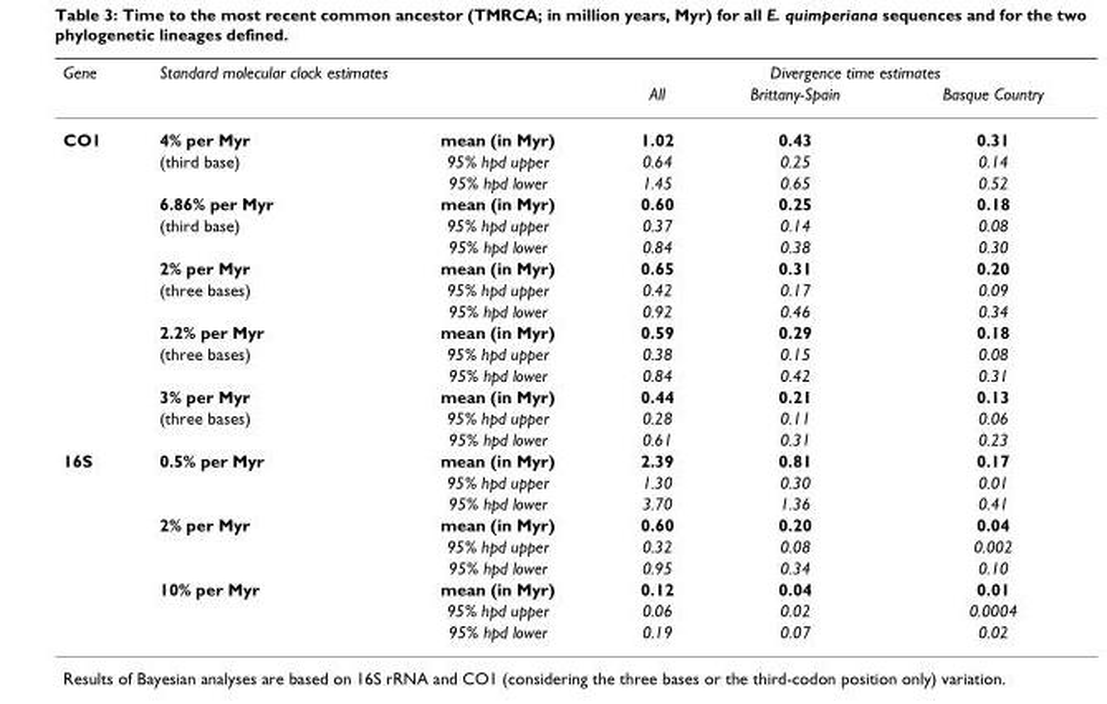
<table><thead><tr><td rowspan="2">Gene</td><td colspan="2">Standard molecular clock estimates</td><td colspan="3">Divergence time estimates</td></tr><tr><td></td><td></td><td>All</td><td>Brittany-Spain</td><td>Basque Country</td></tr></thead><tbody><tr><td rowspan="15">CO1</td><td>4% per Myr</td><td>mean (in Myr)</td><td>1.02</td><td>0.43</td><td>0.31</td></tr><tr><td>(third base)</td><td>95% hpd upper</td><td>0.64</td><td>0.25</td><td>0.14</td></tr><tr><td></td><td>95% hpd lower</td><td>1.45</td><td>0.65</td><td>0.52</td></tr><tr><td>6.86% per Myr</td><td>mean (in Myr)</td><td>0.60</td><td>0.25</td><td>0.18</td></tr><tr><td>(third base)</td><td>95% hpd upper</td><td>0.37</td><td>0.14</td><td>0.08</td></tr><tr><td></td><td>95% hpd lower</td><td>0.84</td><td>0.38</td><td>0.30</td></tr><tr><td>2% per Myr</td><td>mean (in Myr)</td><td>0.65</td><td>0.31</td><td>0.20</td></tr><tr><td>(three bases)</td><td>95% hpd upper</td><td>0.42</td><td>0.17</td><td>0.09</td></tr><tr><td></td><td>95% hpd lower</td><td>0.92</td><td>0.46</td><td>0.34</td></tr><tr><td>2.2% per Myr</td><td>mean (in Myr)</td><td>0.59</td><td>0.29</td><td>0.18</td></tr><tr><td>(three bases)</td><td>95% hpd upper</td><td>0.38</td><td>0.15</td><td>0.08</td></tr><tr><td></td><td>95% hpd lower</td><td>0.84</td><td>0.42</td><td>0.31</td></tr><tr><td>3% per Myr</td><td>mean (in Myr)</td><td>0.44</td><td>0.21</td><td>0.13</td></tr><tr><td>(three bases)</td><td>95% hpd upper</td><td>0.28</td><td>0.11</td><td>0.06</td></tr><tr><td></td><td>95% hpd lower</td><td>0.61</td><td>0.31</td><td>0.23</td></tr><tr><td rowspan="9">16S</td><td>0.5% per Myr</td><td>mean (in Myr)</td><td>2.39</td><td>0.81</td><td>0.17</td></tr><tr><td></td><td>95% hpd upper</td><td>1.30</td><td>0.30</td><td>0.01</td></tr><tr><td></td><td>95% hpd lower</td><td>3.70</td><td>1.36</td><td>0.41</td></tr><tr><td>2% per Myr</td><td>mean (in Myr)</td><td>0.60</td><td>0.20</td><td>0.04</td></tr><tr><td></td><td>95% hpd upper</td><td>0.32</td><td>0.08</td><td>0.002</td></tr><tr><td></td><td>95% hpd lower</td><td>0.95</td><td>0.34</td><td>0.10</td></tr><tr><td>10% per Myr</td><td>mean (in Myr)</td><td>0.12</td><td>0.04</td><td>0.01</td></tr><tr><td></td><td>95% hpd upper</td><td>0.06</td><td>0.02</td><td>0.0004</td></tr><tr><td></td><td>95% hpd lower</td><td>0.19</td><td>0.07</td><td>0.02</td></tr></tbody></table>